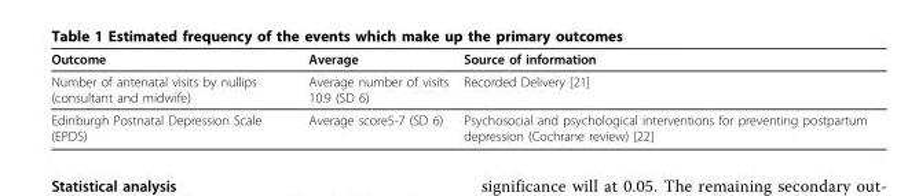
<table><thead><tr><td>Outcome</td><td>Average</td><td>Source of information</td></tr></thead><tbody><tr><td>Number of antenatal visits by nullips (consultant and midwife)</td><td>Average number of visits 10.9 (SD 6)</td><td>Recorded Delivery [21]</td></tr><tr><td>Edinburgh Postnatal Depression Scale (EPDS)</td><td>Average score5-7 (SD 6)</td><td>Psychosocial and psychological interventions for preventing postpartum depression (Cochrane review) [22]</td></tr></tbody></table>